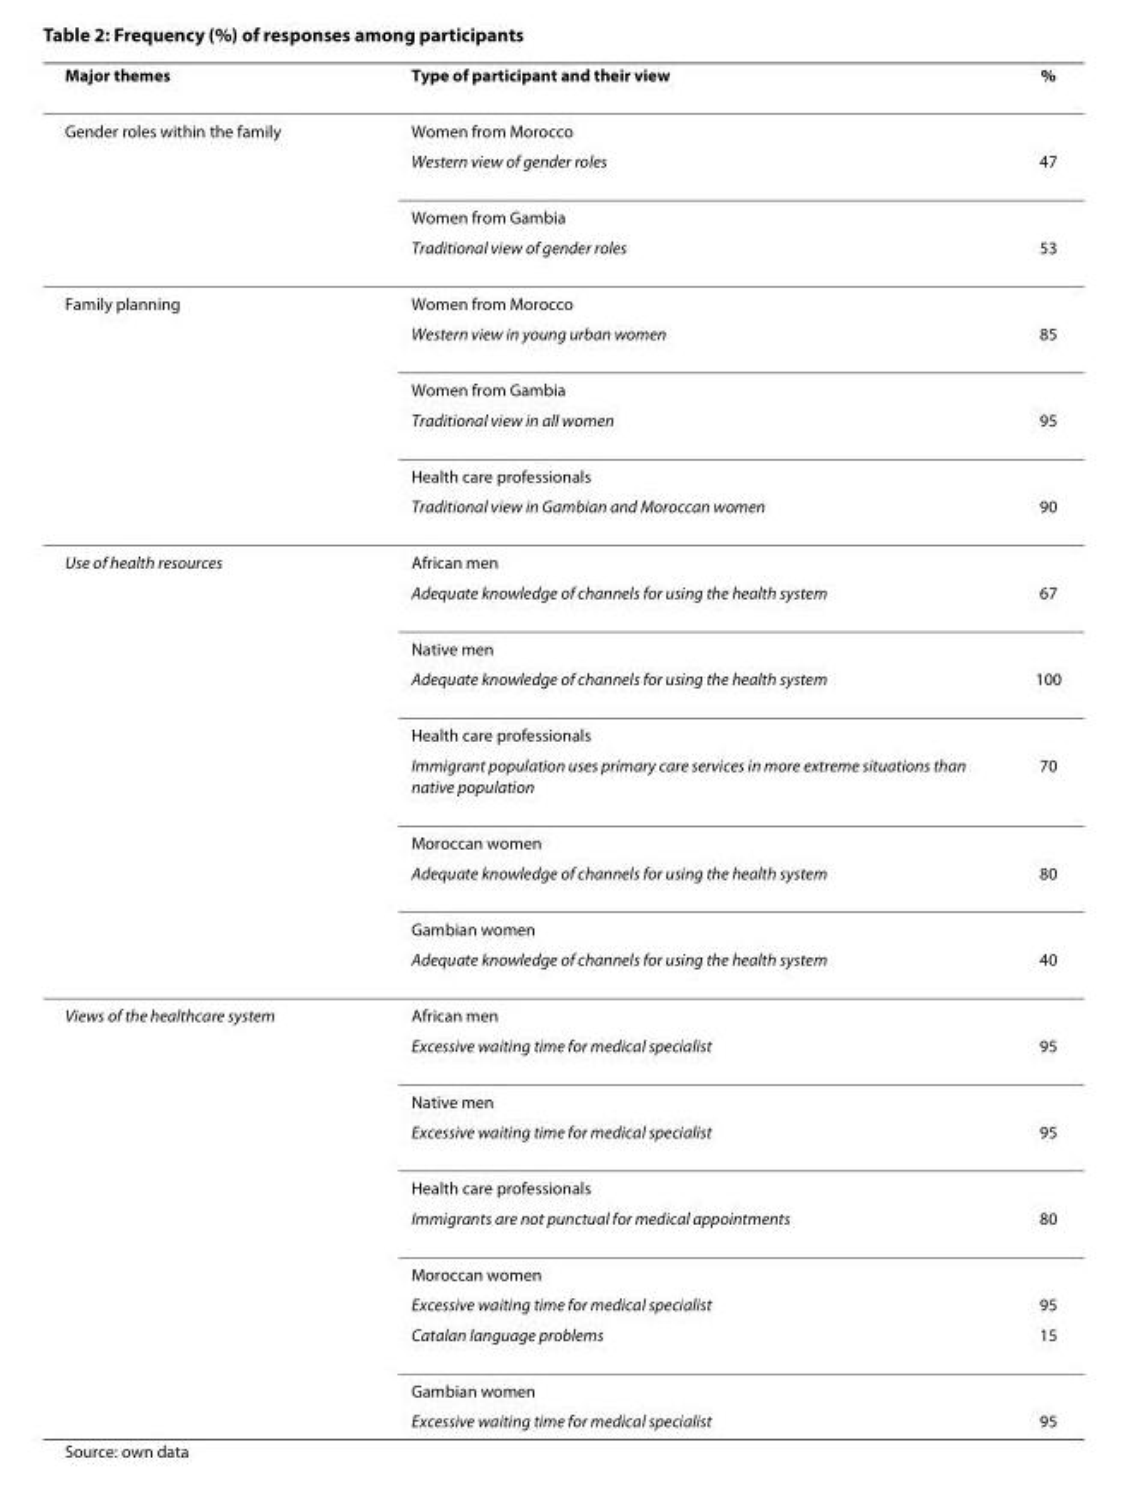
<table><thead><tr><td>Major themes</td><td>Type of participant and their view</td><td>%</td></tr></thead><tbody><tr><td rowspan="4">Gender roles within the family</td><td>Women from Morocco</td><td></td></tr><tr><td>Western view of gender roles</td><td>47</td></tr><tr><td>Women from Gambia</td><td></td></tr><tr><td>Traditional view of gender roles</td><td>53</td></tr><tr><td rowspan="6">Family planning</td><td>Women from Morocco</td><td></td></tr><tr><td>Western view in young urban women</td><td>85</td></tr><tr><td>Women from Gambia</td><td></td></tr><tr><td>Traditional view in all women</td><td>95</td></tr><tr><td>Health care professionals</td><td></td></tr><tr><td>Traditional view in Gambian and Moroccan women</td><td>90</td></tr><tr><td rowspan="10">Use of health resources</td><td>African men</td><td></td></tr><tr><td>Adequate knowledge of channels for using the health system</td><td>67</td></tr><tr><td>Native men</td><td></td></tr><tr><td>Adequate knowledge of channels for using the health system</td><td>100</td></tr><tr><td>Health care professionals</td><td></td></tr><tr><td>Immigrant population uses primary care services in more extreme situations than native population</td><td>70</td></tr><tr><td>Moroccan women</td><td></td></tr><tr><td>Adequate knowledge of channels for using the health system</td><td>80</td></tr><tr><td>Gambian women</td><td></td></tr><tr><td>Adequate knowledge of channels for using the health system</td><td>40</td></tr><tr><td rowspan="11">Views of the healthcare system</td><td>African men</td><td></td></tr><tr><td>Excessive waiting time for medical specialist</td><td>95</td></tr><tr><td>Native men</td><td></td></tr><tr><td>Excessive waiting time for medical specialist</td><td>95</td></tr><tr><td>Health care professionals</td><td></td></tr><tr><td>Immigrants are not punctual for medical appointments</td><td>80</td></tr><tr><td>Moroccan women</td><td></td></tr><tr><td>Excessive waiting time for medical specialist</td><td>95</td></tr><tr><td>Catalan language problems</td><td>15</td></tr><tr><td>Gambian women</td><td></td></tr><tr><td>Excessive waiting time for medical specialist</td><td>95</td></tr></tbody></table>